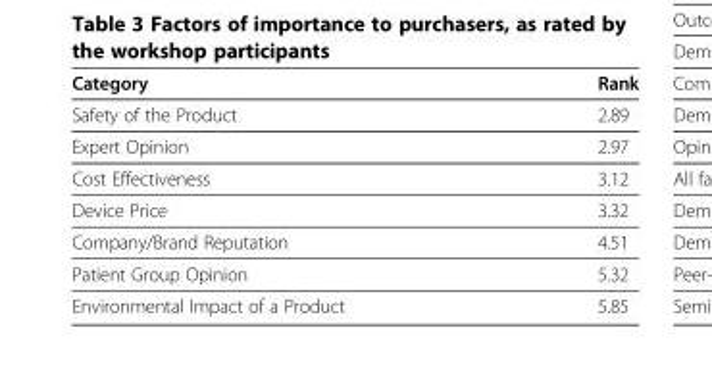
<table><thead><tr><td>Category</td><td>Rank</td></tr></thead><tbody><tr><td>Safety of the Product</td><td>2.89</td></tr><tr><td>Expert Opinion</td><td>2.97</td></tr><tr><td>Cost Effectiveness</td><td>3.12</td></tr><tr><td>Device Price</td><td>3.32</td></tr><tr><td>Company/Brand Reputation</td><td>4.51</td></tr><tr><td>Patient Group Opinion</td><td>5.32</td></tr><tr><td>Environmental Impact of a Product</td><td>5.85</td></tr></tbody></table>